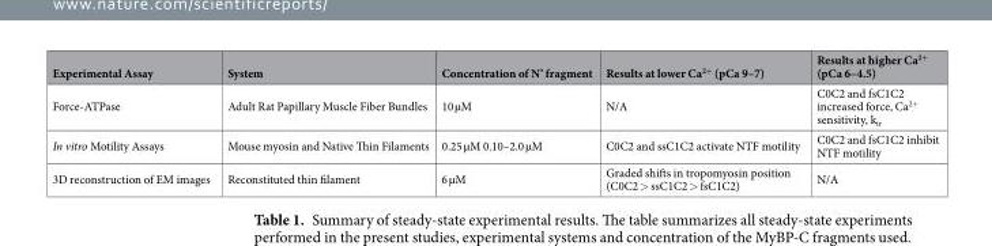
<table><thead><tr><td>Experimental Assay</td><td>System</td><td>Concentration of N’ fragment</td><td>Results at lower Ca<sup>2+</sup> (pCa 9–7)</td><td>Results at higher Ca<sup>2+</sup> (pCa 6–4.5)</td></tr></thead><tbody><tr><td>Force-ATPase</td><td>Adult Rat Papillary Muscle Fiber Bundles</td><td>10 µM</td><td>N/A</td><td>C0C2 and fsC1C2 increased force, Ca<sup>2+</sup> sensitivity, k<sub>tr</sub></td></tr><tr><td>In vitro Motility Assays</td><td>Mouse myosin and Native Thin Filaments</td><td>0.25 µM 0.10–2.0 µM</td><td>C0C2 and ssC1C2 activate NTF motility</td><td>C0C2 and fsC1C2 inhibit NTF motility</td></tr><tr><td>3D reconstruction of EM images</td><td>Reconstituted thin filament</td><td>6 µM</td><td>Graded shifts in tropomyosin position (C0C2 &gt; ssC1C2 &gt; fsC1C2)</td><td>N/A</td></tr></tbody></table>